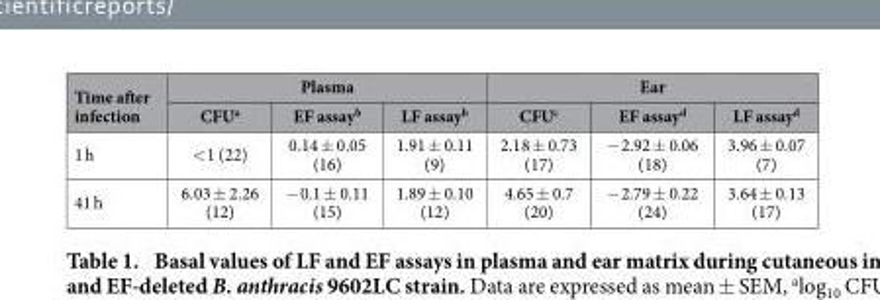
<table><thead><tr><td rowspan="2">Time after infection</td><td colspan="3">Plasma</td><td colspan="3">Ear</td></tr><tr><td>CFU<sup>a</sup></td><td>EF assay<sup>b</sup></td><td>LF assay<sup>b</sup></td><td>CFU<sup>c</sup></td><td>EF assay<sup>d</sup></td><td>LF assay<sup>d</sup></td></tr></thead><tbody><tr><td>1 h</td><td>&lt; 1 (22)</td><td>0.14 ± 0.05 (16)</td><td>1.91 ± 0.11 (9)</td><td>2.18 ± 0.73 (17)</td><td>− 2.92 ± 0.06 (18)</td><td>3.96 ± 0.07 (7)</td></tr><tr><td>41 h</td><td>6.03 ± 2.26 (12)</td><td>− 0.1 ± 0.11 (15)</td><td>1.89 ± 0.10 (12)</td><td>4.65 ± 0.7 (20)</td><td>− 2.79 ± 0.22 (24)</td><td>3.64 ± 0.13 (17)</td></tr></tbody></table>